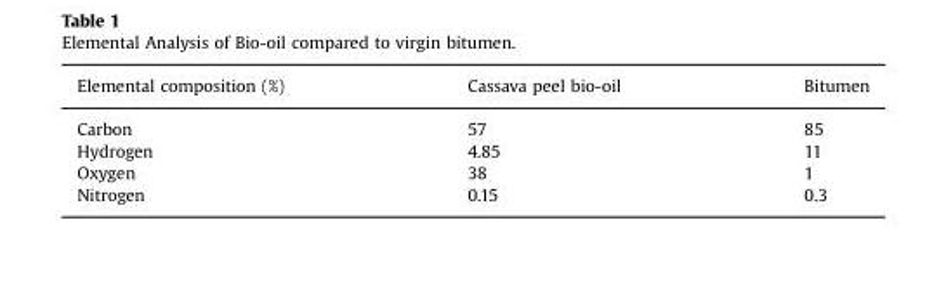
<table><thead><tr><td>Elemental composition (%)</td><td>Cassava peel bio-oil</td><td>Bitumen</td></tr></thead><tbody><tr><td>Carbon</td><td>57</td><td>85</td></tr><tr><td>Hydrogen</td><td>4.85</td><td>11</td></tr><tr><td>Oxygen</td><td>38</td><td>1</td></tr><tr><td>Nitrogen</td><td>0.15</td><td>0.3</td></tr></tbody></table>